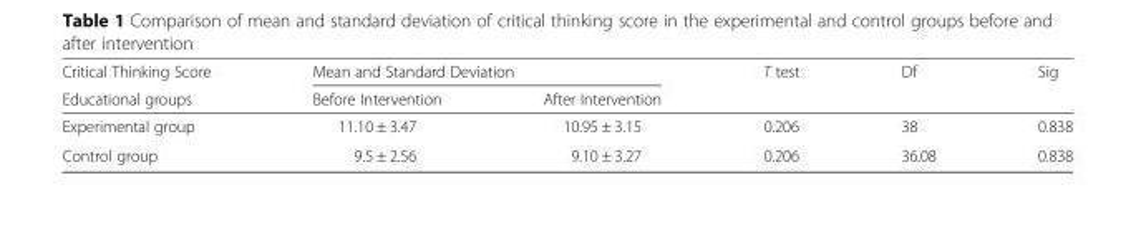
<table><thead><tr><td rowspan="2">Critical Thinking Score Educational groups</td><td colspan="2">Mean and Standard Deviation</td><td rowspan="2">T test</td><td rowspan="2">Df</td><td rowspan="2">Sig</td></tr><tr><td>Before Intervention</td><td>After Intervention</td></tr></thead><tbody><tr><td>Experimental group</td><td>11.10 ± 3.47</td><td>10.95 ± 3.15</td><td>0.206</td><td>38</td><td>0.838</td></tr><tr><td>Control group</td><td>9.5 ± 2.56</td><td>9.10 ± 3.27</td><td>0.206</td><td>36.08</td><td>0.838</td></tr></tbody></table>